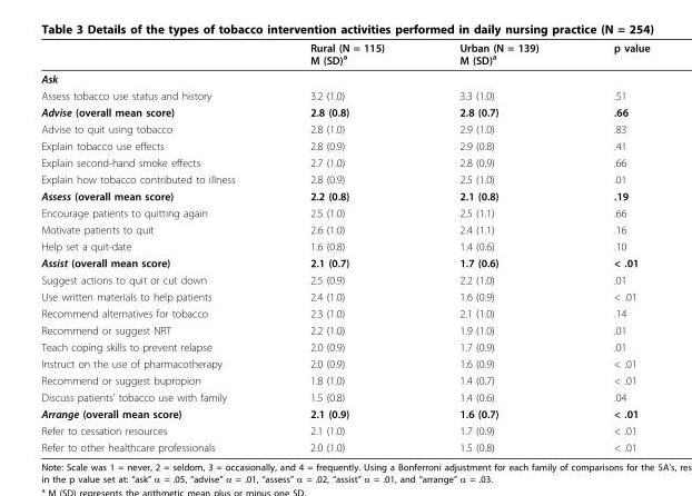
<table><thead><tr><td></td><td>Rural (N = 115) M (SD)<sup>a</sup></td><td>Urban (N = 139) M (SD)<sup>a</sup></td><td>p value</td></tr></thead><tbody><tr><td colspan="4">Ask</td></tr><tr><td>Assess tobacco use status and history</td><td>3.2 (1.0)</td><td>3.3 (1.0)</td><td>.51</td></tr><tr><td>Advise (overall mean score)</td><td>2.8 (0.8)</td><td>2.8 (0.7)</td><td>.66</td></tr><tr><td>Advise to quit using tobacco</td><td>2.8 (1.0)</td><td>2.9 (1.0)</td><td>.83</td></tr><tr><td>Explain tobacco use effects</td><td>2.8 (0.9)</td><td>2.9 (0.8)</td><td>.41</td></tr><tr><td>Explain second-hand smoke effects</td><td>2.7 (1.0)</td><td>2.8 (0.9)</td><td>.66</td></tr><tr><td>Explain how tobacco contributed to illness</td><td>2.8 (0.9)</td><td>2.5 (1.0)</td><td>.01</td></tr><tr><td>Assess (overall mean score)</td><td>2.2 (0.8)</td><td>2.1 (0.8)</td><td>.19</td></tr><tr><td>Encourage patients to quitting again</td><td>2.5 (1.0)</td><td>2.5 (1.1)</td><td>.66</td></tr><tr><td>Motivate patients to quit</td><td>2.6 (1.0)</td><td>2.4 (1.1)</td><td>.16</td></tr><tr><td>Help set a quit-date</td><td>1.6 (0.8)</td><td>1.4 (0.6)</td><td>.10</td></tr><tr><td>Assist (overall mean score)</td><td>2.1 (0.7)</td><td>1.7 (0.6)</td><td>&lt; .01</td></tr><tr><td>Suggest actions to quit or cut down</td><td>2.5 (0.9)</td><td>2.2 (1.0)</td><td>.01</td></tr><tr><td>Use written materials to help patients</td><td>2.4 (1.0)</td><td>1.6 (0.9)</td><td>&lt; .01</td></tr><tr><td>Recommend alternatives for tobacco</td><td>2.3 (1.0)</td><td>2.1 (1.0)</td><td>.14</td></tr><tr><td>Recommend or suggest NRT</td><td>2.2 (1.0)</td><td>1.9 (1.0)</td><td>.01</td></tr><tr><td>Teach coping skills to prevent relapse</td><td>2.0 (0.9)</td><td>1.7 (0.9)</td><td>.01</td></tr><tr><td>Instruct on the use of pharmacotherapy</td><td>2.0 (0.9)</td><td>1.6 (0.9)</td><td>&lt; .01</td></tr><tr><td>Recommend or suggest bupropion</td><td>1.8 (1.0)</td><td>1.4 (0.7)</td><td>&lt; .01</td></tr><tr><td>Discuss patients’ tobacco use with family</td><td>1.5 (0.8)</td><td>1.4 (0.6)</td><td>.04</td></tr><tr><td>Arrange (overall mean score)</td><td>2.1 (0.9)</td><td>1.6 (0.7)</td><td>&lt; .01</td></tr><tr><td>Refer to cessation resources</td><td>2.1 (1.0)</td><td>1.7 (0.9)</td><td>&lt; .01</td></tr><tr><td>Refer to other healthcare professionals</td><td>2.0 (1.0)</td><td>1.5 (0.8)</td><td>&lt; .01</td></tr></tbody></table>